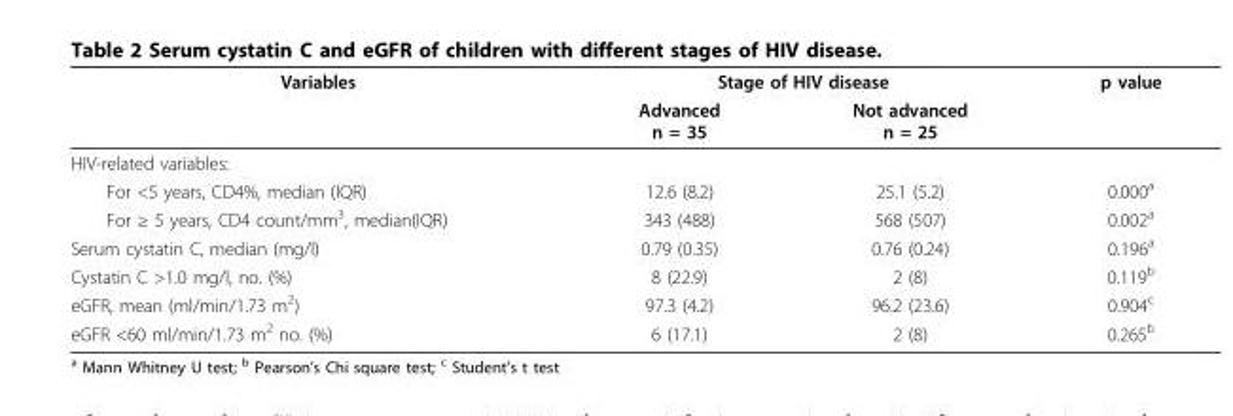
<table><thead><tr><td rowspan="2">Variables</td><td colspan="2">Stage of HIV disease</td><td rowspan="2">p value</td></tr><tr><td>Advanced n = 35</td><td>Not advanced n = 25</td></tr></thead><tbody><tr><td colspan="4">HIV-related variables:</td></tr><tr><td>For &lt;5 years, CD4%, median (IQR)</td><td>12.6 (8.2)</td><td>25.1 (5.2)</td><td>0.000<sup>a</sup></td></tr><tr><td>For ≥ 5 years, CD4 count/mm<sup>3</sup>, median(IQR)</td><td>343 (488)</td><td>568 (507)</td><td>0.002<sup>a</sup></td></tr><tr><td>Serum cystatin C, median (mg/l)</td><td>0.79 (0.35)</td><td>0.76 (0.24)</td><td>0.196<sup>a</sup></td></tr><tr><td>Cystatin C &gt;1.0 mg/l, no. (%)</td><td>8 (22.9)</td><td>2 (8)</td><td>0.119<sup>b</sup></td></tr><tr><td>eGFR, mean (ml/min/1.73 m<sup>2</sup>)</td><td>97.3 (4.2)</td><td>96.2 (23.6)</td><td>0.904<sup>c</sup></td></tr><tr><td>eGFR &lt;60 ml/min/1.73 m<sup>2</sup> no. (%)</td><td>6 (17.1)</td><td>2 (8)</td><td>0.265<sup>b</sup></td></tr></tbody></table>